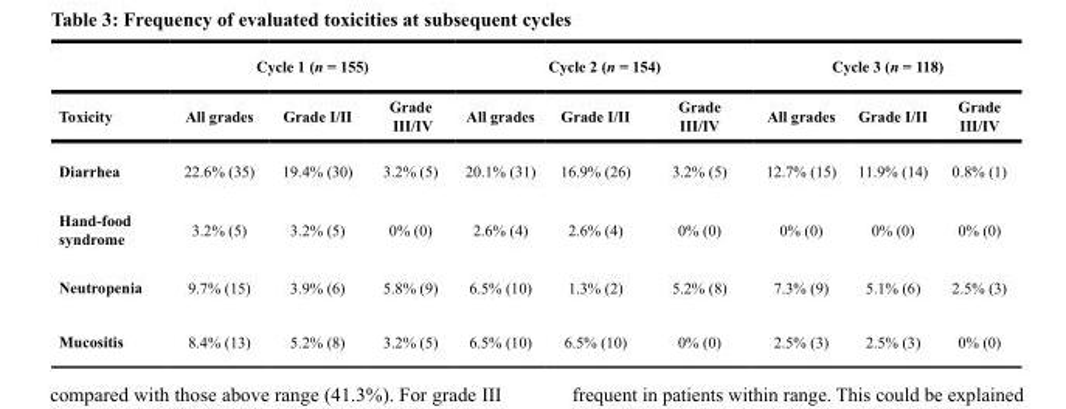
<table><thead><tr><td rowspan="2">Toxicity</td><td colspan="3">Cycle 1 (n = 155)</td><td colspan="3">Cycle 2 (n = 154)</td><td colspan="3">Cycle 3 (n = 118)</td></tr><tr><td>All grades</td><td>Grade I/II</td><td>Grade III/IV</td><td>All grades</td><td>Grade I/II</td><td>Grade III/IV</td><td>All grades</td><td>Grade I/II</td><td>Grade III/IV</td></tr></thead><tbody><tr><td>Diarrhea</td><td>22.6% (35)</td><td>19.4% (30)</td><td>3.2% (5)</td><td>20.1% (31)</td><td>16.9% (26)</td><td>3.2% (5)</td><td>12.7% (15)</td><td>11.9% (14)</td><td>0.8% (1)</td></tr><tr><td>Hand-food syndrome</td><td>3.2% (5)</td><td>3.2% (5)</td><td>0% (0)</td><td>2.6% (4)</td><td>2.6% (4)</td><td>0% (0)</td><td>0% (0)</td><td>0% (0)</td><td>0% (0)</td></tr><tr><td>Neutropenia</td><td>9.7% (15)</td><td>3.9% (6)</td><td>5.8% (9)</td><td>6.5% (10)</td><td>1.3% (2)</td><td>5.2% (8)</td><td>7.3% (9)</td><td>5.1% (6)</td><td>2.5% (3)</td></tr><tr><td>Mucositis</td><td>8.4% (13)</td><td>5.2% (8)</td><td>3.2% (5)</td><td>6.5% (10)</td><td>6.5% (10)</td><td>0% (0)</td><td>2.5% (3)</td><td>2.5% (3)</td><td>0% (0)</td></tr></tbody></table>